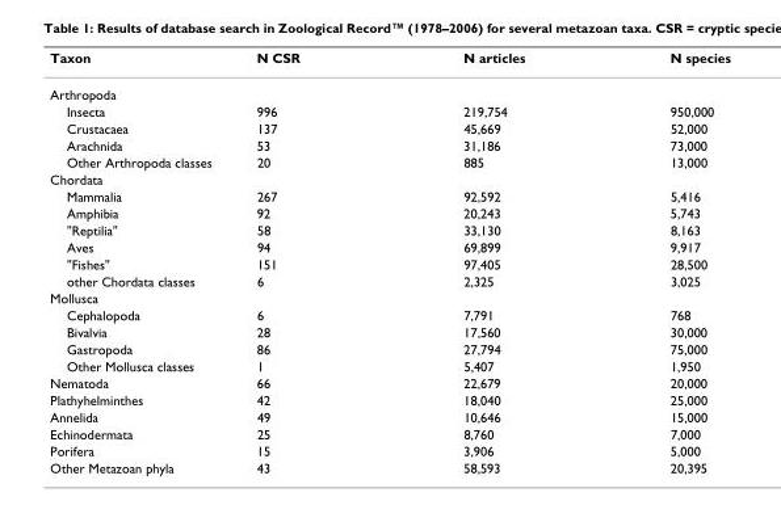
<table><thead><tr><td>Taxon</td><td>N CSR</td><td>N articles</td><td>N species</td></tr></thead><tbody><tr><td colspan="4">Arthropoda</td></tr><tr><td>Insecta</td><td>996</td><td>219,754</td><td>950,000</td></tr><tr><td>Crustacaea</td><td>137</td><td>45,669</td><td>52,000</td></tr><tr><td>Arachnida</td><td>53</td><td>31,186</td><td>73,000</td></tr><tr><td>Other Arthropoda classes</td><td>20</td><td>885</td><td>13,000</td></tr><tr><td colspan="4">Chordata</td></tr><tr><td>Mammalia</td><td>267</td><td>92,592</td><td>5,416</td></tr><tr><td>Amphibia</td><td>92</td><td>20,243</td><td>5,743</td></tr><tr><td>&quot;Reptilia&quot;</td><td>58</td><td>33,130</td><td>8,163</td></tr><tr><td>Aves</td><td>94</td><td>69,899</td><td>9,917</td></tr><tr><td>&quot;Fishes&quot;</td><td>151</td><td>97,405</td><td>28,500</td></tr><tr><td>other Chordata classes</td><td>6</td><td>2,325</td><td>3,025</td></tr><tr><td colspan="4">Mollusca</td></tr><tr><td>Cephalopoda</td><td>6</td><td>7,791</td><td>768</td></tr><tr><td>Bivalvia</td><td>28</td><td>17,560</td><td>30,000</td></tr><tr><td>Gastropoda</td><td>86</td><td>27,794</td><td>75,000</td></tr><tr><td>Other Mollusca classes</td><td>1</td><td>5,407</td><td>1,950</td></tr><tr><td>Nematoda</td><td>66</td><td>22,679</td><td>20,000</td></tr><tr><td>Plathyhelminthes</td><td>42</td><td>18,040</td><td>25,000</td></tr><tr><td>Annelida</td><td>49</td><td>10,646</td><td>15,000</td></tr><tr><td>Echinodermata</td><td>25</td><td>8,760</td><td>7,000</td></tr><tr><td>Porifera</td><td>15</td><td>3,906</td><td>5,000</td></tr><tr><td>Other Metazoan phyla</td><td>43</td><td>58,593</td><td>20,395</td></tr></tbody></table>